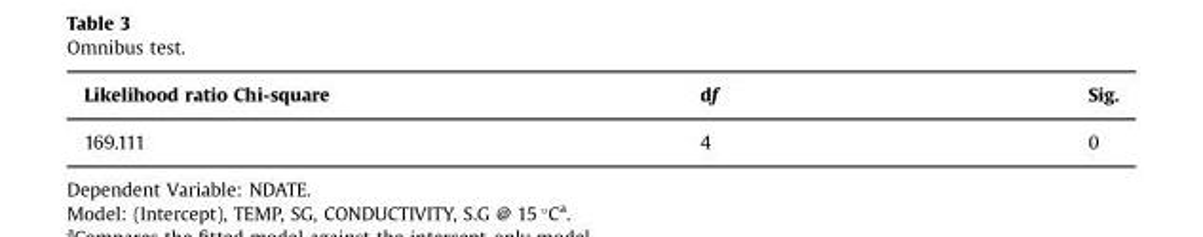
<table><thead><tr><td>Likelihood ratio Chi-square</td><td>df</td><td>Sig.</td></tr></thead><tbody><tr><td>169.111</td><td>4</td><td>0</td></tr></tbody></table>